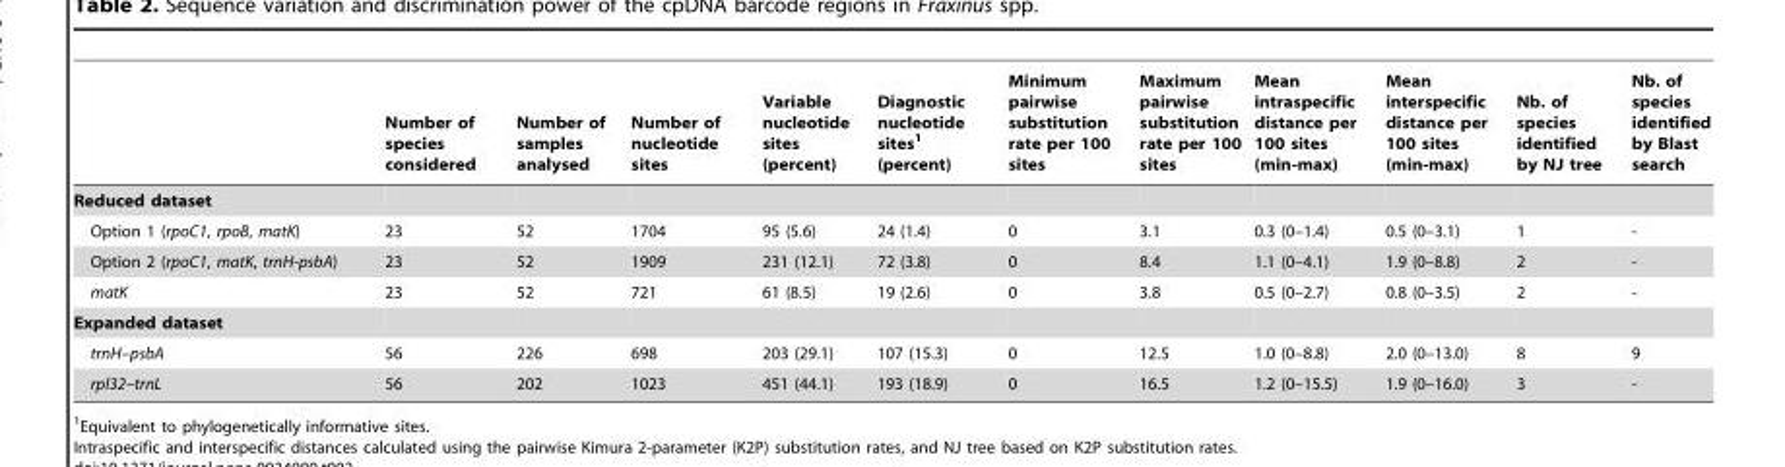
<table><thead><tr><td></td><td>Number of species considered</td><td>Number of samples analysed</td><td>Number of nucleotide sites</td><td>Variable nucleotide sites (percent)</td><td>Diagnostic nucleotide sites<sup>1</sup> (percent)</td><td>Minimum pairwise substitution rate per 100 sites</td><td>Maximum pairwise substitution rate per 100 sites</td><td>Mean intraspecific distance per 100 sites (min-max)</td><td>Mean interspecific distance per 100 sites (min-max)</td><td>Nb. of species identified by NJ tree</td><td>Nb. of species identified by Blast search</td></tr></thead><tbody><tr><td colspan="12">Reduced dataset</td></tr><tr><td>Option 1 (rpoC1, rpoB, matK)</td><td>23</td><td>52</td><td>1704</td><td>95 (5.6)</td><td>24 (1.4)</td><td>0</td><td>3.1</td><td>0.3 (0–1.4)</td><td>0.5 (0–3.1)</td><td>1</td><td>-</td></tr><tr><td>Option 2 (rpoC1, matK, trnH-psbA)</td><td>23</td><td>52</td><td>1909</td><td>231 (12.1)</td><td>72 (3.8)</td><td>0</td><td>8.4</td><td>1.1 (0–4.1)</td><td>1.9 (0–8.8)</td><td>2</td><td>-</td></tr><tr><td>matK</td><td>23</td><td>52</td><td>721</td><td>61 (8.5)</td><td>19 (2.6)</td><td>0</td><td>3.8</td><td>0.5 (0–2.7)</td><td>0.8 (0–3.5)</td><td>2</td><td>-</td></tr><tr><td colspan="12">Expanded dataset</td></tr><tr><td>trnH–psbA</td><td>56</td><td>226</td><td>698</td><td>203 (29.1)</td><td>107 (15.3)</td><td>0</td><td>12.5</td><td>1.0 (0–8.8)</td><td>2.0 (0–13.0)</td><td>8</td><td>9</td></tr><tr><td>rpl32–trnL</td><td>56</td><td>202</td><td>1023</td><td>451 (44.1)</td><td>193 (18.9)</td><td>0</td><td>16.5</td><td>1.2 (0–15.5)</td><td>1.9 (0–16.0)</td><td>3</td><td>-</td></tr></tbody></table>